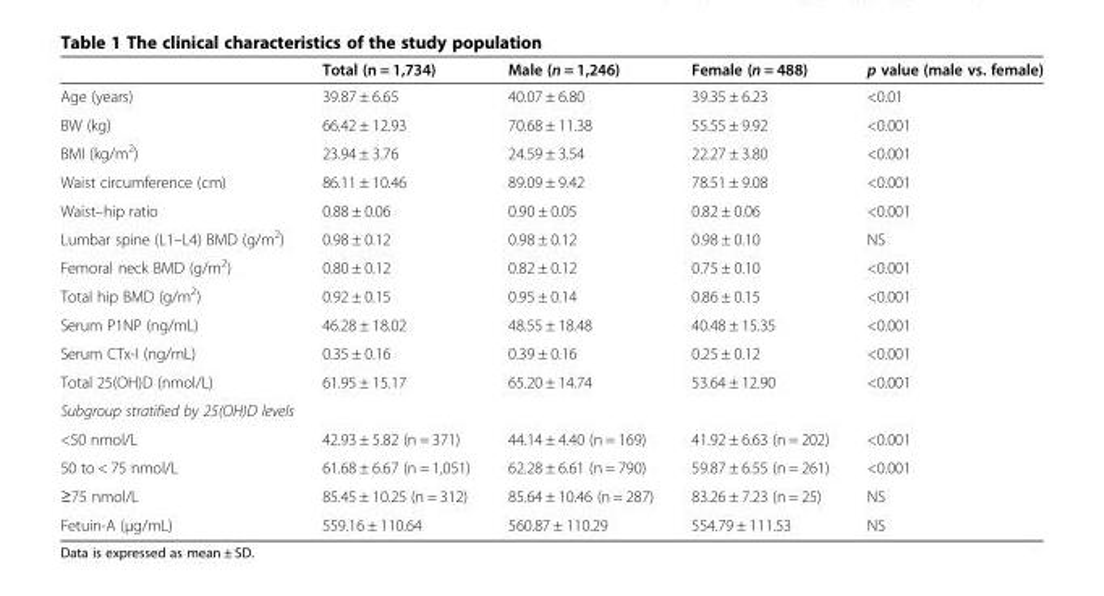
<table><thead><tr><td></td><td>Total (n = 1,734)</td><td>Male (n = 1,246)</td><td>Female (n = 488)</td><td>p value (male vs. female)</td></tr></thead><tbody><tr><td>Age (years)</td><td>39.87 ± 6.65</td><td>40.07 ± 6.80</td><td>39.35 ± 6.23</td><td>&lt;0.01</td></tr><tr><td>BW (kg)</td><td>66.42 ± 12.93</td><td>70.68 ± 11.38</td><td>55.55 ± 9.92</td><td>&lt;0.001</td></tr><tr><td>BMI (kg/m<sup>2</sup>)</td><td>23.94 ± 3.76</td><td>24.59 ± 3.54</td><td>22.27 ± 3.80</td><td>&lt;0.001</td></tr><tr><td>Waist circumference (cm)</td><td>86.11 ± 10.46</td><td>89.09 ± 9.42</td><td>78.51 ± 9.08</td><td>&lt;0.001</td></tr><tr><td>Waist–hip ratio</td><td>0.88 ± 0.06</td><td>0.90 ± 0.05</td><td>0.82 ± 0.06</td><td>&lt;0.001</td></tr><tr><td>Lumbar spine (L1–L4) BMD (g/m<sup>2</sup>)</td><td>0.98 ± 0.12</td><td>0.98 ± 0.12</td><td>0.98 ± 0.10</td><td>NS</td></tr><tr><td>Femoral neck BMD (g/m<sup>2</sup>)</td><td>0.80 ± 0.12</td><td>0.82 ± 0.12</td><td>0.75 ± 0.10</td><td>&lt;0.001</td></tr><tr><td>Total hip BMD (g/m<sup>2</sup>)</td><td>0.92 ± 0.15</td><td>0.95 ± 0.14</td><td>0.86 ± 0.15</td><td>&lt;0.001</td></tr><tr><td>Serum P1NP (ng/mL)</td><td>46.28 ± 18.02</td><td>48.55 ± 18.48</td><td>40.48 ± 15.35</td><td>&lt;0.001</td></tr><tr><td>Serum CTx-I (ng/mL)</td><td>0.35 ± 0.16</td><td>0.39 ± 0.16</td><td>0.25 ± 0.12</td><td>&lt;0.001</td></tr><tr><td>Total 25(OH)D (nmol/L)</td><td>61.95 ± 15.17</td><td>65.20 ± 14.74</td><td>53.64 ± 12.90</td><td>&lt;0.001</td></tr><tr><td colspan="5">Subgroup stratified by 25(OH)D levels</td></tr><tr><td>&lt;50 nmol/L</td><td>42.93 ± 5.82 (n = 371)</td><td>44.14 ± 4.40 (n = 169)</td><td>41.92 ± 6.63 (n = 202)</td><td>&lt;0.001</td></tr><tr><td>50 to &lt; 75 nmol/L</td><td>61.68 ± 6.67 (n = 1,051)</td><td>62.28 ± 6.61 (n = 790)</td><td>59.87 ± 6.55 (n = 261)</td><td>&lt;0.001</td></tr><tr><td>≥75 nmol/L</td><td>85.45 ± 10.25 (n = 312)</td><td>85.64 ± 10.46 (n = 287)</td><td>83.26 ± 7.23 (n = 25)</td><td>NS</td></tr><tr><td>Fetuin-A (μg/mL)</td><td>559.16 ± 110.64</td><td>560.87 ± 110.29</td><td>554.79 ± 111.53</td><td>NS</td></tr></tbody></table>